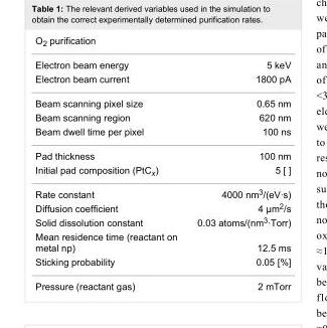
<table><tbody><tr><td colspan="2">O<sub>2</sub> purification</td></tr><tr><td>Electron beam energy</td><td>5 keV</td></tr><tr><td>Electron beam current</td><td>1800 pA</td></tr><tr><td>Beam scanning pixel size</td><td>0.65 nm</td></tr><tr><td>Beam scanning region</td><td>620 nm</td></tr><tr><td>Beam dwell time per pixel</td><td>100 ns</td></tr><tr><td>Pad thickness</td><td>100 nm</td></tr><tr><td>Initial pad composition (PtC<sub>x</sub>)</td><td>5 [ ]</td></tr><tr><td>Rate constant</td><td>4000 nm<sup>3</sup>/(eV·s)</td></tr><tr><td>Diffusion coefficient</td><td>4 µm<sup>2</sup>/s</td></tr><tr><td>Solid dissolution constant</td><td>0.03 atoms/(nm<sup>3</sup>·Torr)</td></tr><tr><td>Mean residence time (reactant on metal np)</td><td>12.5 ms</td></tr><tr><td>Sticking probability</td><td>0.05 [%]</td></tr><tr><td>Pressure (reactant gas)</td><td>2 mTorr</td></tr></tbody></table>